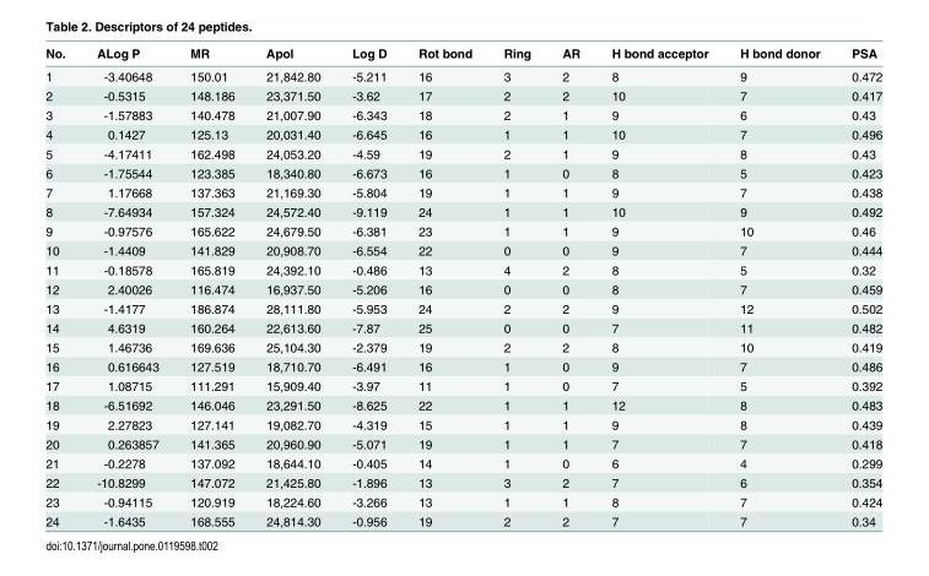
<table><thead><tr><td>No.</td><td>ALog P</td><td>MR</td><td>Apol</td><td>Log D</td><td>Rot bond</td><td>Ring</td><td>AR</td><td>H bond acceptor</td><td>H bond donor</td><td>PSA</td></tr></thead><tbody><tr><td>1</td><td>-3.40648</td><td>150.01</td><td>21,842.80</td><td>-5.211</td><td>16</td><td>3</td><td>2</td><td>8</td><td>9</td><td>0.472</td></tr><tr><td>2</td><td>-0.5315</td><td>148.186</td><td>23,371.50</td><td>-3.62</td><td>17</td><td>2</td><td>2</td><td>10</td><td>7</td><td>0.417</td></tr><tr><td>3</td><td>-1.57883</td><td>140.478</td><td>21,007.90</td><td>-6.343</td><td>18</td><td>2</td><td>1</td><td>9</td><td>6</td><td>0.43</td></tr><tr><td>4</td><td>0.1427</td><td>125.13</td><td>20,031.40</td><td>-6.645</td><td>16</td><td>1</td><td>1</td><td>10</td><td>7</td><td>0.496</td></tr><tr><td>5</td><td>-4.17411</td><td>162.498</td><td>24,053.20</td><td>-4.59</td><td>19</td><td>2</td><td>1</td><td>9</td><td>8</td><td>0.43</td></tr><tr><td>6</td><td>-1.75544</td><td>123.385</td><td>18,340.80</td><td>-6.673</td><td>16</td><td>1</td><td>0</td><td>8</td><td>5</td><td>0.423</td></tr><tr><td>7</td><td>1.17668</td><td>137.363</td><td>21,169.30</td><td>-5.804</td><td>19</td><td>1</td><td>1</td><td>9</td><td>7</td><td>0.438</td></tr><tr><td>8</td><td>-7.64934</td><td>157.324</td><td>24,572.40</td><td>-9.119</td><td>24</td><td>1</td><td>1</td><td>10</td><td>9</td><td>0.492</td></tr><tr><td>9</td><td>-0.97576</td><td>165.622</td><td>24,679.50</td><td>-6.381</td><td>23</td><td>1</td><td>1</td><td>9</td><td>10</td><td>0.46</td></tr><tr><td>10</td><td>-1.4409</td><td>141.829</td><td>20,908.70</td><td>-6.554</td><td>22</td><td>0</td><td>0</td><td>9</td><td>7</td><td>0.444</td></tr><tr><td>11</td><td>-0.18578</td><td>165.819</td><td>24,392.10</td><td>-0.486</td><td>13</td><td>4</td><td>2</td><td>8</td><td>5</td><td>0.32</td></tr><tr><td>12</td><td>2.40026</td><td>116.474</td><td>16,937.50</td><td>-5.206</td><td>16</td><td>0</td><td>0</td><td>8</td><td>7</td><td>0.459</td></tr><tr><td>13</td><td>-1.4177</td><td>186.874</td><td>28,111.80</td><td>-5.953</td><td>24</td><td>2</td><td>2</td><td>9</td><td>12</td><td>0.502</td></tr><tr><td>14</td><td>4.6319</td><td>160.264</td><td>22,613.60</td><td>-7.87</td><td>25</td><td>0</td><td>0</td><td>7</td><td>11</td><td>0.482</td></tr><tr><td>15</td><td>1.46736</td><td>169.636</td><td>25,104.30</td><td>-2.379</td><td>19</td><td>2</td><td>2</td><td>8</td><td>10</td><td>0.419</td></tr><tr><td>16</td><td>0.616643</td><td>127.519</td><td>18,710.70</td><td>-6.491</td><td>16</td><td>1</td><td>0</td><td>9</td><td>7</td><td>0.486</td></tr><tr><td>17</td><td>1.08715</td><td>111.291</td><td>15,909.40</td><td>-3.97</td><td>11</td><td>1</td><td>0</td><td>7</td><td>5</td><td>0.392</td></tr><tr><td>18</td><td>-6.51692</td><td>146.046</td><td>23,291.50</td><td>-8.625</td><td>22</td><td>1</td><td>1</td><td>12</td><td>8</td><td>0.483</td></tr><tr><td>19</td><td>2.27823</td><td>127.141</td><td>19,082.70</td><td>-4.319</td><td>15</td><td>1</td><td>1</td><td>9</td><td>8</td><td>0.439</td></tr><tr><td>20</td><td>0.263857</td><td>141.365</td><td>20,960.90</td><td>-5.071</td><td>19</td><td>1</td><td>1</td><td>7</td><td>7</td><td>0.418</td></tr><tr><td>21</td><td>-0.2278</td><td>137.092</td><td>18,644.10</td><td>-0.405</td><td>14</td><td>1</td><td>0</td><td>6</td><td>4</td><td>0.299</td></tr><tr><td>22</td><td>-10.8299</td><td>147.072</td><td>21,425.80</td><td>-1.896</td><td>13</td><td>3</td><td>2</td><td>7</td><td>6</td><td>0.354</td></tr><tr><td>23</td><td>-0.94115</td><td>120.919</td><td>18,224.60</td><td>-3.266</td><td>13</td><td>1</td><td>1</td><td>8</td><td>7</td><td>0.424</td></tr><tr><td>24</td><td>-1.6435</td><td>168.555</td><td>24,814.30</td><td>-0.956</td><td>19</td><td>2</td><td>2</td><td>7</td><td>7</td><td>0.34</td></tr></tbody></table>